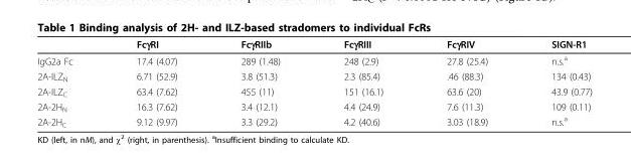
<table><thead><tr><td></td><td>FcγRI</td><td>FcγRIIb</td><td>FcγRIII</td><td>FcγRIV</td><td>SIGN-R1</td></tr></thead><tbody><tr><td>IgG2a Fc</td><td>17.4 (4.07)</td><td>289 (1.48)</td><td>248 (2.9)</td><td>27.8 (25.4)</td><td>n.s.<sup>a</sup></td></tr><tr><td>2A-ILZ<sub>N</sub></td><td>6.71 (52.9)</td><td>3.8 (51.3)</td><td>2.3 (85.4)</td><td>.46 (88.3)</td><td>134 (0.43)</td></tr><tr><td>2A-ILZ<sub>C</sub></td><td>63.4 (7.62)</td><td>455 (11)</td><td>151 (16.1)</td><td>63.6 (20)</td><td>43.9 (0.77)</td></tr><tr><td>2A-2H<sub>N</sub></td><td>16.3 (7.62)</td><td>3.4 (12.1)</td><td>4.4 (24.9)</td><td>7.6 (11.3)</td><td>109 (0.11)</td></tr><tr><td>2A-2H<sub>C</sub></td><td>9.12 (9.97)</td><td>3.3 (29.2)</td><td>4.2 (40.6)</td><td>3.03 (18.9)</td><td>n.s.<sup>a</sup></td></tr></tbody></table>